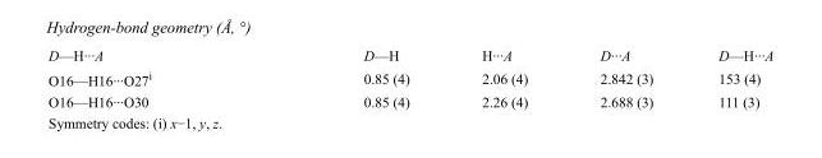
<table><tbody><tr><td>D—H···A</td><td>D—H</td><td>H···A</td><td>D···A</td><td>D—H···A</td></tr><tr><td>O16—H16···O27<sup>i</sup></td><td>0.85 (4)</td><td>2.06 (4)</td><td>2.842 (3)</td><td>153 (4)</td></tr><tr><td>O16—H16···O30</td><td>0.85 (4)</td><td>2.26 (4)</td><td>2.688 (3)</td><td>111 (3)</td></tr></tbody></table>